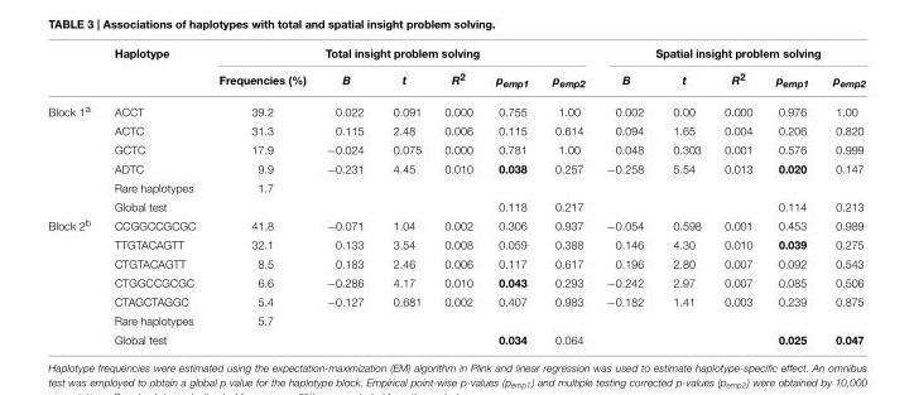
<table><thead><tr><td rowspan="2"></td><td rowspan="2">Haplotype</td><td colspan="6">Total insight problem solving</td><td colspan="5">Spatial insight problem solving</td></tr><tr><td>Frequencies (%)</td><td>B</td><td>t</td><td>R<sup>2</sup></td><td>pemp1</td><td>pemp2</td><td>B</td><td>t</td><td>R<sup>2</sup></td><td>pemp1</td><td>pemp2</td></tr></thead><tbody><tr><td rowspan="6">Block 1<sup>a</sup></td><td>ACCT</td><td>39.2</td><td>0.022</td><td>0.091</td><td>0.000</td><td>0.755</td><td>1.00</td><td>0.002</td><td>0.00</td><td>0.000</td><td>0.976</td><td>1.00</td></tr><tr><td>ACTC</td><td>31.3</td><td>0.115</td><td>2.48</td><td>0.006</td><td>0.115</td><td>0.614</td><td>0.094</td><td>1.65</td><td>0.004</td><td>0.206</td><td>0.820</td></tr><tr><td>GCTC</td><td>17.9</td><td>−0.024</td><td>0.075</td><td>0.000</td><td>0.781</td><td>1.00</td><td>0.048</td><td>0.303</td><td>0.001</td><td>0.576</td><td>0.999</td></tr><tr><td>ADTC</td><td>9.9</td><td>−0.231</td><td>4.45</td><td>0.010</td><td>0.038</td><td>0.257</td><td>−0.258</td><td>5.54</td><td>0.013</td><td>0.020</td><td>0.147</td></tr><tr><td>Rare haplotypes</td><td>1.7</td><td></td><td></td><td></td><td></td><td></td><td></td><td></td><td></td><td></td><td></td></tr><tr><td>Global test</td><td></td><td></td><td></td><td></td><td>0.118</td><td>0.217</td><td></td><td></td><td></td><td>0.114</td><td>0.213</td></tr><tr><td rowspan="7">Block 2<sup>b</sup></td><td>CCGGCCGCGC</td><td>41.8</td><td>−0.071</td><td>1.04</td><td>0.002</td><td>0.306</td><td>0.937</td><td>−0.054</td><td>0.598</td><td>0.001</td><td>0.453</td><td>0.989</td></tr><tr><td>TTGTACAGTT</td><td>32.1</td><td>0.133</td><td>3.54</td><td>0.008</td><td>0.059</td><td>0.388</td><td>0.146</td><td>4.30</td><td>0.010</td><td>0.039</td><td>0.275</td></tr><tr><td>CTGTACAGTT</td><td>8.5</td><td>0.183</td><td>2.46</td><td>0.006</td><td>0.117</td><td>0.617</td><td>0.196</td><td>2.80</td><td>0.007</td><td>0.092</td><td>0.543</td></tr><tr><td>CTGGCCGCGC</td><td>6.6</td><td>−0.286</td><td>4.17</td><td>0.010</td><td>0.043</td><td>0.293</td><td>−0.242</td><td>2.97</td><td>0.007</td><td>0.085</td><td>0.506</td></tr><tr><td>CTAGCTAGGC</td><td>5.4</td><td>−0.127</td><td>0.681</td><td>0.002</td><td>0.407</td><td>0.983</td><td>−0.182</td><td>1.41</td><td>0.003</td><td>0.239</td><td>0.875</td></tr><tr><td>Rare haplotypes</td><td>5.7</td><td></td><td></td><td></td><td></td><td></td><td></td><td></td><td></td><td></td><td></td></tr><tr><td>Global test</td><td></td><td></td><td></td><td></td><td>0.034</td><td>0.064</td><td></td><td></td><td></td><td>0.025</td><td>0.047</td></tr></tbody></table>